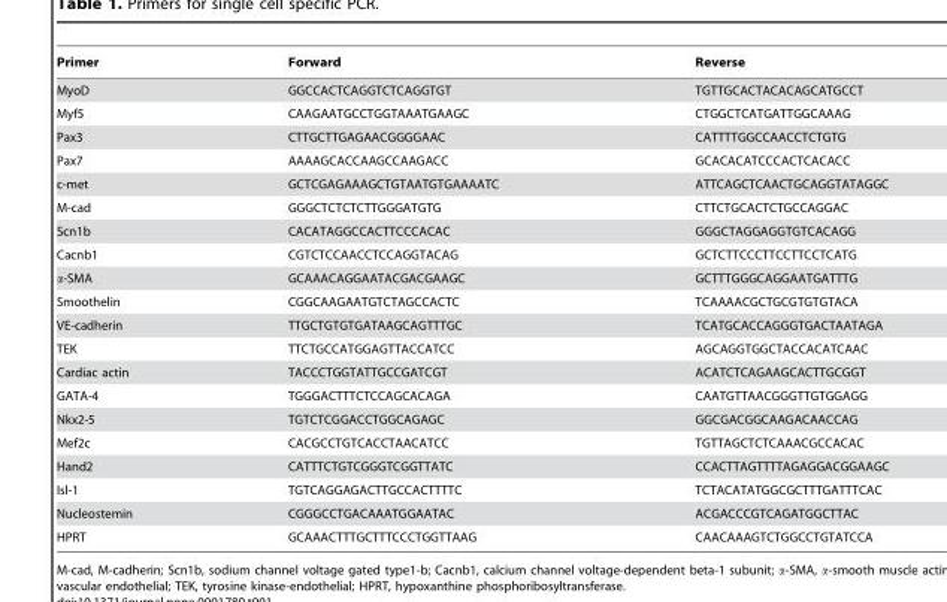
<table><thead><tr><td>Primer</td><td>Forward</td><td>Reverse</td></tr></thead><tbody><tr><td>MyoD</td><td>GGCCACTCAGGTCTCAGGTGT</td><td>TGTTGCACTACACAGCATGCCT</td></tr><tr><td>Myf5</td><td>CAAGAATGCCTGGTAAATGAAGC</td><td>CTGGCTCATGATTGGCAAAG</td></tr><tr><td>Pax3</td><td>CTTGCTTGAGAACGGGGAAC</td><td>CATTTTGGCCAACCTCTGTG</td></tr><tr><td>Pax7</td><td>AAAAGCACCAAGCCAAGACC</td><td>GCACACATCCCACTCACACC</td></tr><tr><td>c-met</td><td>GCTCGAGAAAGCTGTAATGTGAAAATC</td><td>ATTCAGCTCAACTGCAGGTATAGGC</td></tr><tr><td>M-cad</td><td>GGGCTCTCTCTTGGGATGTG</td><td>CTTCTGCACTCTGCCAGGAC</td></tr><tr><td>Scn1b</td><td>CACATAGGCCACTTCCCACAC</td><td>GGGCTAGGAGGTGTCACAGG</td></tr><tr><td>Cacnb1</td><td>CGTCTCCAACCTCCAGGTACAG</td><td>GCTCTTCCCTTCCTTCCTCATG</td></tr><tr><td>α-SMA</td><td>GCAAACAGGAATACGACGAAGC</td><td>GCTTTGGGCAGGAATGATTTG</td></tr><tr><td>Smoothelin</td><td>CGGCAAGAATGTCTAGCCACTC</td><td>TCAAAACGCTGCGTGTGTACA</td></tr><tr><td>VE-cadherin</td><td>TTGCTGTGTGATAAGCAGTTTGC</td><td>TCATGCACCAGGGTGACTAATAGA</td></tr><tr><td>TEK</td><td>TTCTGCCATGGAGTTACCATCC</td><td>AGCAGGTGGCTACCACATCAAC</td></tr><tr><td>Cardiac actin</td><td>TACCCTGGTATTGCCGATCGT</td><td>ACATCTCAGAAGCACTTGCGGT</td></tr><tr><td>GATA-4</td><td>TGGGACTTTCTCCAGCACAGA</td><td>CAATGTTAACGGGTTGTGGAGG</td></tr><tr><td>Nkx2-5</td><td>TGTCTCGGACCTGGCAGAGC</td><td>GGCGACGGCAAGACAACCAG</td></tr><tr><td>Mef2c</td><td>CACGCCTGTCACCTAACATCC</td><td>TGTTAGCTCTCAAACGCCACAC</td></tr><tr><td>Hand2</td><td>CATTTCTGTCGGGTCGGTTATC</td><td>CCACTTAGTTTTAGAGGACGGAAGC</td></tr><tr><td>Isl-1</td><td>TGTCAGGAGACTTGCCACTTTTC</td><td>TCTACATATGGCGCTTTGATTTCAC</td></tr><tr><td>Nucleostemin</td><td>CGGGCCTGACAAATGGAATAC</td><td>ACGACCCGTCAGATGGCTTAC</td></tr><tr><td>HPRT</td><td>GCAAACTTTGCTTTCCCTGGTTAAG</td><td>CAACAAAGTCTGGCCTGTATCCA</td></tr></tbody></table>